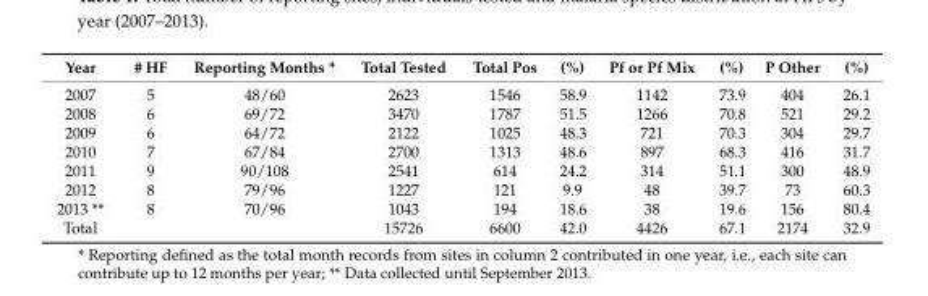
<table><thead><tr><td>Year</td><td># HF</td><td>Reporting Months *</td><td>Total Tested</td><td>Total Pos</td><td>(%)</td><td>Pf or Pf Mix</td><td>(%)</td><td>P Other</td><td>(%)</td></tr></thead><tbody><tr><td>2007</td><td>5</td><td>48/60</td><td>2623</td><td>1546</td><td>58.9</td><td>1142</td><td>73.9</td><td>404</td><td>26.1</td></tr><tr><td>2008</td><td>6</td><td>69/72</td><td>3470</td><td>1787</td><td>51.5</td><td>1266</td><td>70.8</td><td>521</td><td>29.2</td></tr><tr><td>2009</td><td>6</td><td>64/72</td><td>2122</td><td>1025</td><td>48.3</td><td>721</td><td>70.3</td><td>304</td><td>29.7</td></tr><tr><td>2010</td><td>7</td><td>67/84</td><td>2700</td><td>1313</td><td>48.6</td><td>897</td><td>68.3</td><td>416</td><td>31.7</td></tr><tr><td>2011</td><td>9</td><td>90/108</td><td>2541</td><td>614</td><td>24.2</td><td>314</td><td>51.1</td><td>300</td><td>48.9</td></tr><tr><td>2012</td><td>8</td><td>79/96</td><td>1227</td><td>121</td><td>9.9</td><td>48</td><td>39.7</td><td>73</td><td>60.3</td></tr><tr><td>2013 **</td><td>8</td><td>70/96</td><td>1043</td><td>194</td><td>18.6</td><td>38</td><td>19.6</td><td>156</td><td>80.4</td></tr><tr><td>Total</td><td></td><td></td><td>15726</td><td>6600</td><td>42.0</td><td>4426</td><td>67.1</td><td>2174</td><td>32.9</td></tr></tbody></table>